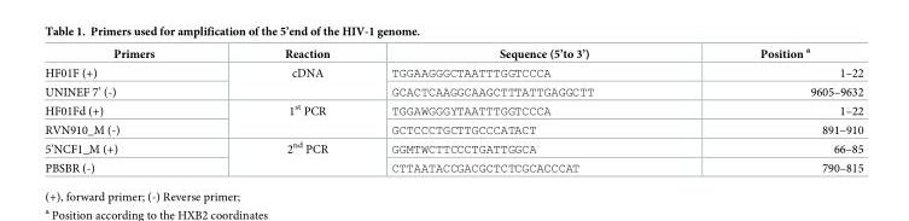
<table><thead><tr><td>Primers</td><td>Reaction</td><td>Sequence (5’to 3’)</td><td>Position <sup>a</sup></td></tr></thead><tbody><tr><td>HF01F (+)</td><td rowspan="2">cDNA</td><td>TGGAAGGGCTAATTTGGTCCCA</td><td>1–22</td></tr><tr><td>UNINEF 7’ (-)</td><td>GCACTCAAGGCAAGCTTTATTGAGGCTT</td><td>9605–9632</td></tr><tr><td>HF01Fd (+)</td><td rowspan="2">1<sup>st</sup> PCR</td><td>TGGAWGGGYTAATTTGGTCCCA</td><td>1–22</td></tr><tr><td>RVN910_M (-)</td><td>GCTCCCTGCTTGCCCATACT</td><td>891–910</td></tr><tr><td>5’NCF1_M (+)</td><td rowspan="2">2<sup>nd</sup> PCR</td><td>GGMTWCTTCCCTGATTGGCA</td><td>66–85</td></tr><tr><td>PBSBR (-)</td><td>CTTAATACCGACGCTCTCGCACCCAT</td><td>790–815</td></tr></tbody></table>